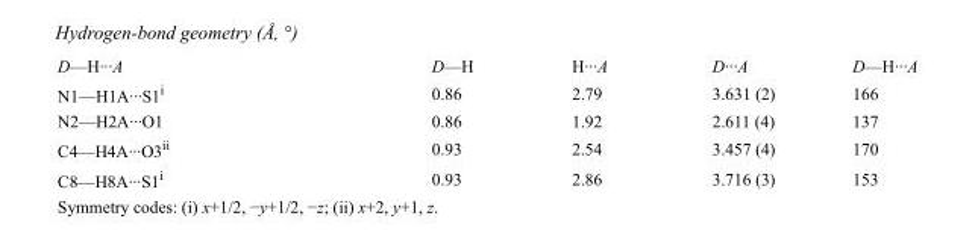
<table><tbody><tr><td>D—H···A</td><td>D—H</td><td>H···A</td><td>D···A</td><td>D—H···A</td></tr><tr><td>N1—H1A···S1<sup>i</sup></td><td>0.86</td><td>2.79</td><td>3.631 (2)</td><td>166</td></tr><tr><td>N2—H2A···O1</td><td>0.86</td><td>1.92</td><td>2.611 (4)</td><td>137</td></tr><tr><td>C4—H4A···O3<sup>ii</sup></td><td>0.93</td><td>2.54</td><td>3.457 (4)</td><td>170</td></tr><tr><td>C8—H8A···S1<sup>i</sup></td><td>0.93</td><td>2.86</td><td>3.716 (3)</td><td>153</td></tr></tbody></table>